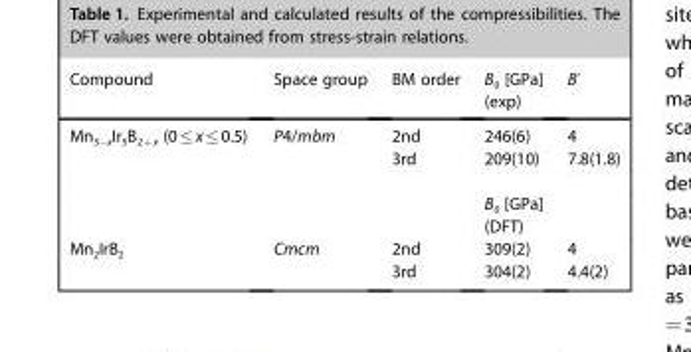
<table><thead><tr><td>Compound</td><td>Space group</td><td>BM order</td><td>B<sub>0</sub> [GPa] (exp)</td><td>B’</td></tr></thead><tbody><tr><td rowspan="2">Mn<sub>3−x</sub>Ir<sub>5</sub>B<sub>2+x</sub> (0≤x≤0.5)</td><td>P4/mbm</td><td>2nd 3rd</td><td>246(6) 209(10)</td><td>4 7.8(1.8)</td></tr><tr><td></td><td></td><td>B<sub>0</sub> [GPa] (DFT)</td><td></td></tr><tr><td>Mn<sub>2</sub>IrB<sub>2</sub></td><td>Cmcm</td><td>2nd 3rd</td><td>309(2) 304(2)</td><td>4 4.4(2)</td></tr></tbody></table>